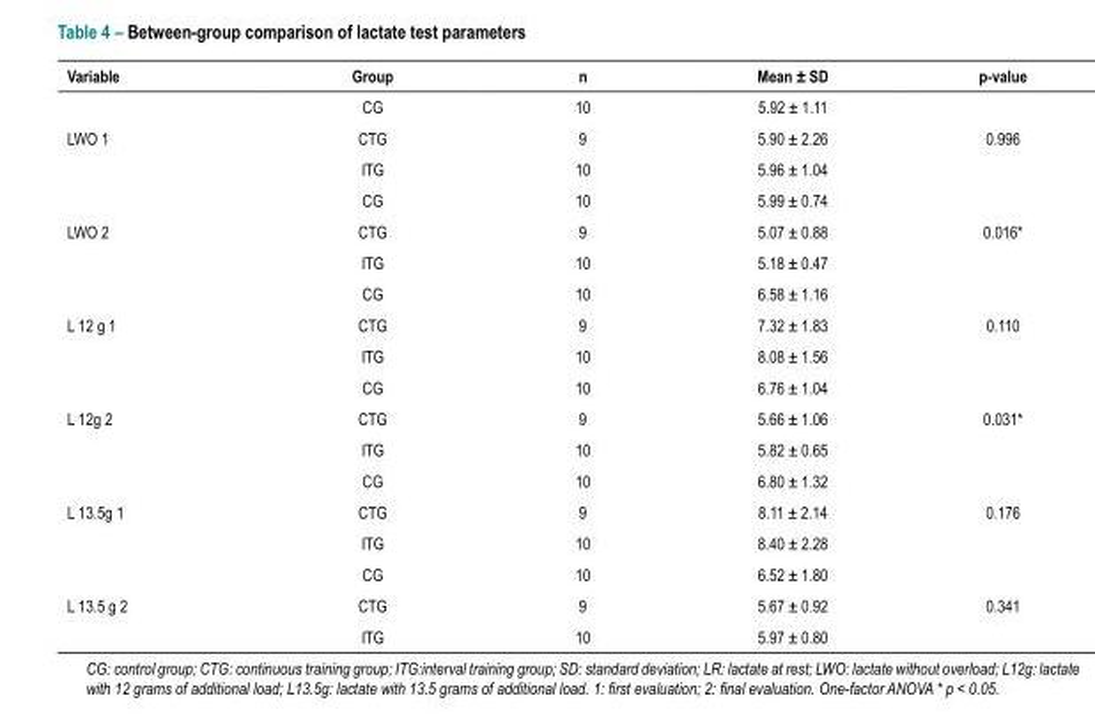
<table><thead><tr><td>Variable</td><td>Group</td><td>n</td><td>Mean ± SD</td><td>p-value</td></tr></thead><tbody><tr><td rowspan="3">LWO 1</td><td>CG</td><td>10</td><td>5.92 ± 1.11</td><td rowspan="3">0.996</td></tr><tr><td>CTG</td><td>9</td><td>5.90 ± 2.26</td></tr><tr><td>ITG</td><td>10</td><td>5.96 ± 1.04</td></tr><tr><td rowspan="3">LWO 2</td><td>CG</td><td>10</td><td>5.99 ± 0.74</td><td rowspan="3">0.016*</td></tr><tr><td>CTG</td><td>9</td><td>5.07 ± 0.88</td></tr><tr><td>ITG</td><td>10</td><td>5.18 ± 0.47</td></tr><tr><td rowspan="3">L 12 g 1</td><td>CG</td><td>10</td><td>6.58 ± 1.16</td><td rowspan="3">0.110</td></tr><tr><td>CTG</td><td>9</td><td>7.32 ± 1.83</td></tr><tr><td>ITG</td><td>10</td><td>8.08 ± 1.56</td></tr><tr><td rowspan="3">L 12g 2</td><td>CG</td><td>10</td><td>6.76 ± 1.04</td><td rowspan="3">0.031*</td></tr><tr><td>CTG</td><td>9</td><td>5.66 ± 1.06</td></tr><tr><td>ITG</td><td>10</td><td>5.82 ± 0.65</td></tr><tr><td rowspan="3">L 13.5g 1</td><td>CG</td><td>10</td><td>6.80 ± 1.32</td><td rowspan="3">0.176</td></tr><tr><td>CTG</td><td>9</td><td>8.11 ± 2.14</td></tr><tr><td>ITG</td><td>10</td><td>8.40 ± 2.28</td></tr><tr><td rowspan="3">L 13.5 g 2</td><td>CG</td><td>10</td><td>6.52 ± 1.80</td><td rowspan="3">0.341</td></tr><tr><td>CTG</td><td>9</td><td>5.67 ± 0.92</td></tr><tr><td>ITG</td><td>10</td><td>5.97 ± 0.80</td></tr></tbody></table>